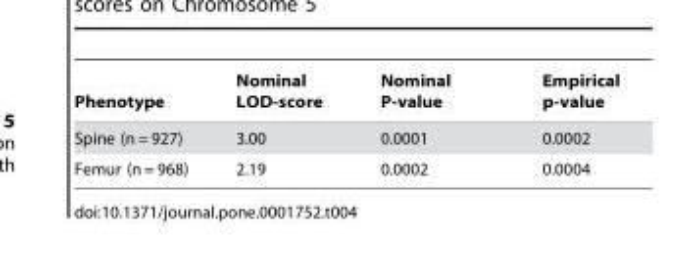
<table><thead><tr><td>Phenotype</td><td>Nominal LOD-score</td><td>Nominal P-value</td><td>Empirical p-value</td></tr></thead><tbody><tr><td>Spine (n = 927)</td><td>3.00</td><td>0.0001</td><td>0.0002</td></tr><tr><td>Femur (n = 968)</td><td>2.19</td><td>0.0002</td><td>0.0004</td></tr></tbody></table>